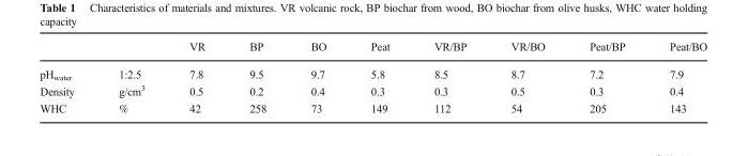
<table><thead><tr><td></td><td></td><td>VR</td><td>BP</td><td>BO</td><td>Peat</td><td>VR/BP</td><td>VR/BO</td><td>Peat/BP</td><td>Peat/BO</td></tr></thead><tbody><tr><td>pH<sub>water</sub></td><td>1:2.5</td><td>7.8</td><td>9.5</td><td>9.7</td><td>5.8</td><td>8.5</td><td>8.7</td><td>7.2</td><td>7.9</td></tr><tr><td>Density</td><td>g/cm<sup>3</sup></td><td>0.5</td><td>0.2</td><td>0.4</td><td>0.3</td><td>0.3</td><td>0.5</td><td>0.3</td><td>0.4</td></tr><tr><td>WHC</td><td>%</td><td>42</td><td>258</td><td>73</td><td>149</td><td>112</td><td>54</td><td>205</td><td>143</td></tr></tbody></table>